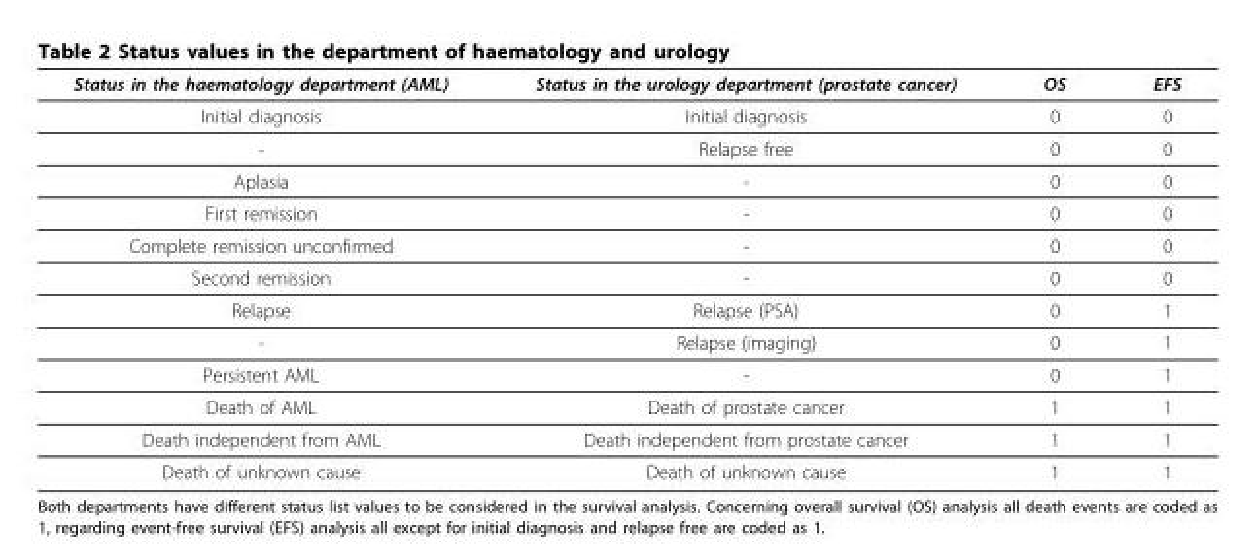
<table><thead><tr><td>Status in the haematology department (AML)</td><td>Status in the urology department (prostate cancer)</td><td>OS</td><td>EFS</td></tr></thead><tbody><tr><td>Initial diagnosis</td><td>Initial diagnosis</td><td>0</td><td>0</td></tr><tr><td>-</td><td>Relapse free</td><td>0</td><td>0</td></tr><tr><td>Aplasia</td><td>-</td><td>0</td><td>0</td></tr><tr><td>First remission</td><td>-</td><td>0</td><td>0</td></tr><tr><td>Complete remission unconfirmed</td><td>-</td><td>0</td><td>0</td></tr><tr><td>Second remission</td><td>-</td><td>0</td><td>0</td></tr><tr><td>Relapse</td><td>Relapse (PSA)</td><td>0</td><td>1</td></tr><tr><td>-</td><td>Relapse (imaging)</td><td>0</td><td>1</td></tr><tr><td>Persistent AML</td><td>-</td><td>0</td><td>1</td></tr><tr><td>Death of AML</td><td>Death of prostate cancer</td><td>1</td><td>1</td></tr><tr><td>Death independent from AML</td><td>Death independent from prostate cancer</td><td>1</td><td>1</td></tr><tr><td>Death of unknown cause</td><td>Death of unknown cause</td><td>1</td><td>1</td></tr></tbody></table>